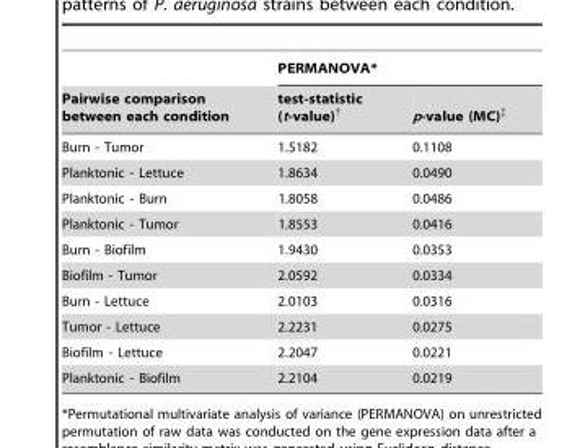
<table><thead><tr><td rowspan="2">Pairwise comparison between each condition</td><td colspan="2">PERMANOVA*</td></tr><tr><td>test-statistic (t-value)†</td><td>p-value (MC)‡</td></tr></thead><tbody><tr><td>Burn - Tumor</td><td>1.5182</td><td>0.1108</td></tr><tr><td>Planktonic - Lettuce</td><td>1.8634</td><td>0.0490</td></tr><tr><td>Planktonic - Burn</td><td>1.8058</td><td>0.0486</td></tr><tr><td>Planktonic - Tumor</td><td>1.8553</td><td>0.0416</td></tr><tr><td>Burn - Biofilm</td><td>1.9430</td><td>0.0353</td></tr><tr><td>Biofilm - Tumor</td><td>2.0592</td><td>0.0334</td></tr><tr><td>Burn - Lettuce</td><td>2.0103</td><td>0.0316</td></tr><tr><td>Tumor - Lettuce</td><td>2.2231</td><td>0.0275</td></tr><tr><td>Biofilm - Lettuce</td><td>2.2047</td><td>0.0221</td></tr><tr><td>Planktonic - Biofilm</td><td>2.2104</td><td>0.0219</td></tr></tbody></table>